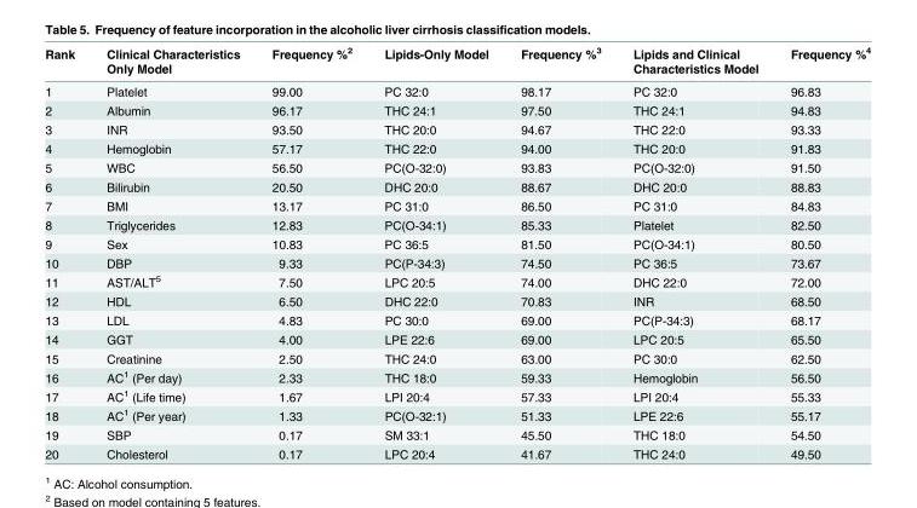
<table><thead><tr><td>Rank</td><td>Clinical Characteristics Only Model</td><td>Frequency %<sup>2</sup></td><td>Lipids-Only Model</td><td>Frequency %<sup>3</sup></td><td>Lipids and Clinical Characteristics Model</td><td>Frequency %<sup>4</sup></td></tr></thead><tbody><tr><td>1</td><td>Platelet</td><td>99.00</td><td>PC 32:0</td><td>98.17</td><td>PC 32:0</td><td>96.83</td></tr><tr><td>2</td><td>Albumin</td><td>96.17</td><td>THC 24:1</td><td>97.50</td><td>THC 24:1</td><td>94.83</td></tr><tr><td>3</td><td>INR</td><td>93.50</td><td>THC 20:0</td><td>94.67</td><td>THC 22:0</td><td>93.33</td></tr><tr><td>4</td><td>Hemoglobin</td><td>57.17</td><td>THC 22:0</td><td>94.00</td><td>THC 20:0</td><td>91.83</td></tr><tr><td>5</td><td>WBC</td><td>56.50</td><td>PC(O-32:0)</td><td>93.83</td><td>PC(O-32:0)</td><td>91.50</td></tr><tr><td>6</td><td>Bilirubin</td><td>20.50</td><td>DHC 20:0</td><td>88.67</td><td>DHC 20:0</td><td>88.83</td></tr><tr><td>7</td><td>BMI</td><td>13.17</td><td>PC 31:0</td><td>86.50</td><td>PC 31:0</td><td>84.83</td></tr><tr><td>8</td><td>Triglycerides</td><td>12.83</td><td>PC(O-34:1)</td><td>85.33</td><td>Platelet</td><td>82.50</td></tr><tr><td>9</td><td>Sex</td><td>10.83</td><td>PC 36:5</td><td>81.50</td><td>PC(O-34:1)</td><td>80.50</td></tr><tr><td>10</td><td>DBP</td><td>9.33</td><td>PC(P-34:3)</td><td>74.50</td><td>PC 36:5</td><td>73.67</td></tr><tr><td>11</td><td>AST/ALT<sup>5</sup></td><td>7.50</td><td>LPC 20:5</td><td>74.00</td><td>DHC 22:0</td><td>72.00</td></tr><tr><td>12</td><td>HDL</td><td>6.50</td><td>DHC 22:0</td><td>70.83</td><td>INR</td><td>68.50</td></tr><tr><td>13</td><td>LDL</td><td>4.83</td><td>PC 30:0</td><td>69.00</td><td>PC(P-34:3)</td><td>68.17</td></tr><tr><td>14</td><td>GGT</td><td>4.00</td><td>LPE 22:6</td><td>69.00</td><td>LPC 20:5</td><td>65.50</td></tr><tr><td>15</td><td>Creatinine</td><td>2.50</td><td>THC 24:0</td><td>63.00</td><td>PC 30:0</td><td>62.50</td></tr><tr><td>16</td><td>AC<sup>1</sup> (Per day)</td><td>2.33</td><td>THC 18:0</td><td>59.33</td><td>Hemoglobin</td><td>56.50</td></tr><tr><td>17</td><td>AC<sup>1</sup> (Life time)</td><td>1.67</td><td>LPI 20:4</td><td>57.33</td><td>LPI 20:4</td><td>55.33</td></tr><tr><td>18</td><td>AC<sup>1</sup> (Per year)</td><td>1.33</td><td>PC(O-32:1)</td><td>51.33</td><td>LPE 22:6</td><td>55.17</td></tr><tr><td>19</td><td>SBP</td><td>0.17</td><td>SM 33:1</td><td>45.50</td><td>THC 18:0</td><td>54.50</td></tr><tr><td>20</td><td>Cholesterol</td><td>0.17</td><td>LPC 20:4</td><td>41.67</td><td>THC 24:0</td><td>49.50</td></tr></tbody></table>